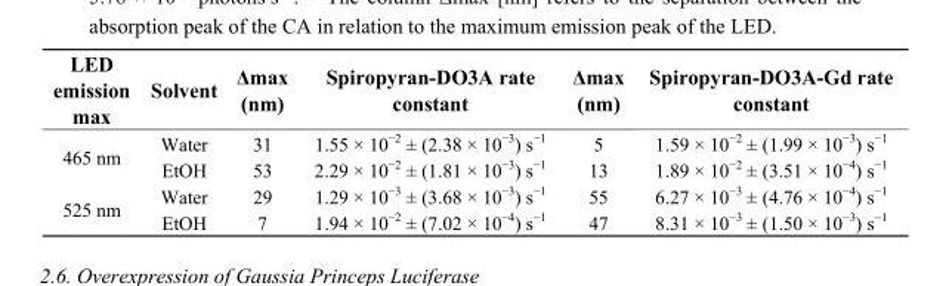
<table><thead><tr><td>LED emission max</td><td>Solvent</td><td>Δmax (nm)</td><td>Spiropyran-DO3A rate constant</td><td>Δmax (nm)</td><td>Spiropyran-DO3A-Gd rate constant</td></tr></thead><tbody><tr><td rowspan="2">465 nm</td><td>Water</td><td>31</td><td>1.55 × 10<sup>−2</sup> ± (2.38 × 10<sup>−3</sup>) s<sup>−1</sup></td><td>5</td><td>1.59 × 10<sup>−2</sup> ± (1.99 × 10<sup>−3</sup>) s<sup>−1</sup></td></tr><tr><td>EtOH</td><td>53</td><td>2.29 × 10<sup>−2</sup> ± (1.81 × 10<sup>−3</sup>) s<sup>−1</sup></td><td>13</td><td>1.89 × 10<sup>−2</sup> ± (3.51 × 10<sup>−4</sup>) s<sup>−1</sup></td></tr><tr><td rowspan="2">525 nm</td><td>Water</td><td>29</td><td>1.29 × 10<sup>−3</sup> ± (3.68 × 10<sup>−3</sup>) s<sup>−1</sup></td><td>55</td><td>6.27 × 10<sup>−3</sup> ± (4.76 × 10<sup>−4</sup>) s<sup>−1</sup></td></tr><tr><td>EtOH</td><td>7</td><td>1.94 × 10<sup>−2</sup> ± (7.02 × 10<sup>−4</sup>) s<sup>−1</sup></td><td>47</td><td>8.31 × 10<sup>−3</sup> ± (1.50 × 10<sup>−3</sup>) s<sup>−1</sup></td></tr></tbody></table>